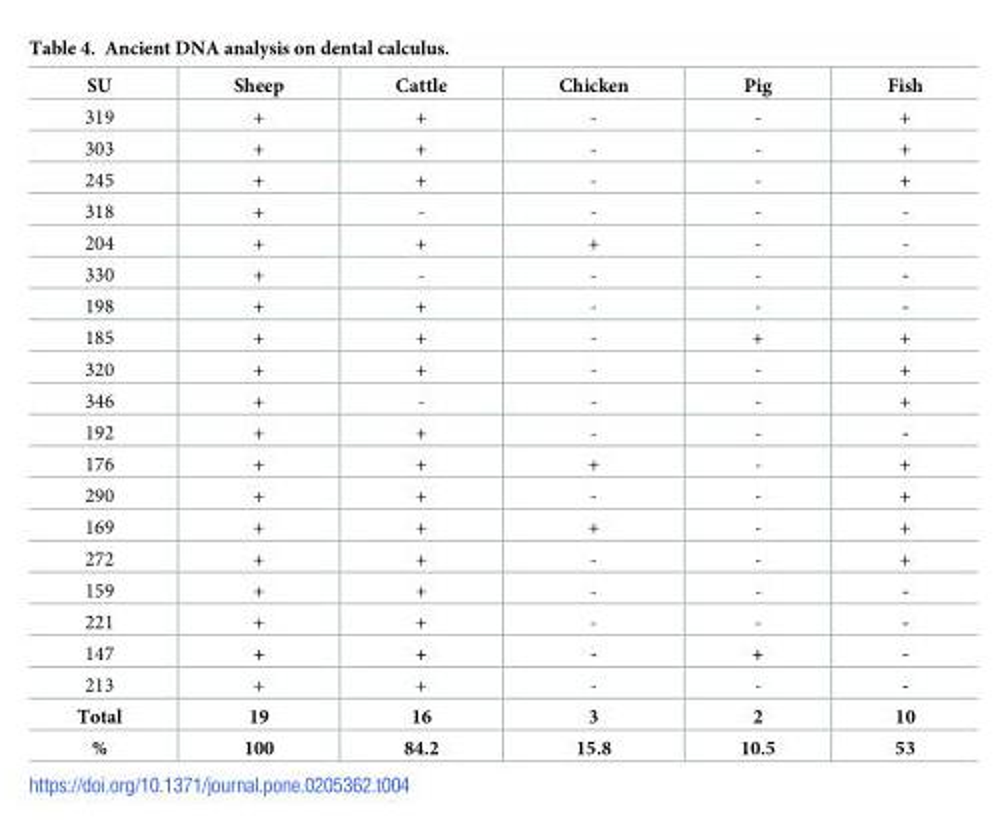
<table><thead><tr><td>SU</td><td>Sheep</td><td>Cattle</td><td>Chicken</td><td>Pig</td><td>Fish</td></tr></thead><tbody><tr><td>319</td><td>+</td><td>+</td><td>-</td><td>-</td><td>+</td></tr><tr><td>303</td><td>+</td><td>+</td><td>-</td><td>-</td><td>+</td></tr><tr><td>245</td><td>+</td><td>+</td><td>-</td><td>-</td><td>+</td></tr><tr><td>318</td><td>+</td><td>-</td><td>-</td><td>-</td><td>-</td></tr><tr><td>204</td><td>+</td><td>+</td><td>+</td><td>-</td><td>-</td></tr><tr><td>330</td><td>+</td><td>-</td><td>-</td><td>-</td><td>-</td></tr><tr><td>198</td><td>+</td><td>+</td><td>-</td><td>-</td><td>-</td></tr><tr><td>185</td><td>+</td><td>+</td><td>-</td><td>+</td><td>+</td></tr><tr><td>320</td><td>+</td><td>+</td><td>-</td><td>-</td><td>+</td></tr><tr><td>346</td><td>+</td><td>-</td><td>-</td><td>-</td><td>+</td></tr><tr><td>192</td><td>+</td><td>+</td><td>-</td><td>-</td><td>-</td></tr><tr><td>176</td><td>+</td><td>+</td><td>+</td><td>-</td><td>+</td></tr><tr><td>290</td><td>+</td><td>+</td><td>-</td><td>-</td><td>+</td></tr><tr><td>169</td><td>+</td><td>+</td><td>+</td><td>-</td><td>+</td></tr><tr><td>272</td><td>+</td><td>+</td><td>-</td><td>-</td><td>+</td></tr><tr><td>159</td><td>+</td><td>+</td><td>-</td><td>-</td><td>-</td></tr><tr><td>221</td><td>+</td><td>+</td><td>-</td><td>-</td><td>-</td></tr><tr><td>147</td><td>+</td><td>+</td><td>-</td><td>+</td><td>-</td></tr><tr><td>213</td><td>+</td><td>+</td><td>-</td><td>-</td><td>-</td></tr><tr><td>Total</td><td>19</td><td>16</td><td>3</td><td>2</td><td>10</td></tr><tr><td>%</td><td>100</td><td>84.2</td><td>15.8</td><td>10.5</td><td>53</td></tr></tbody></table>